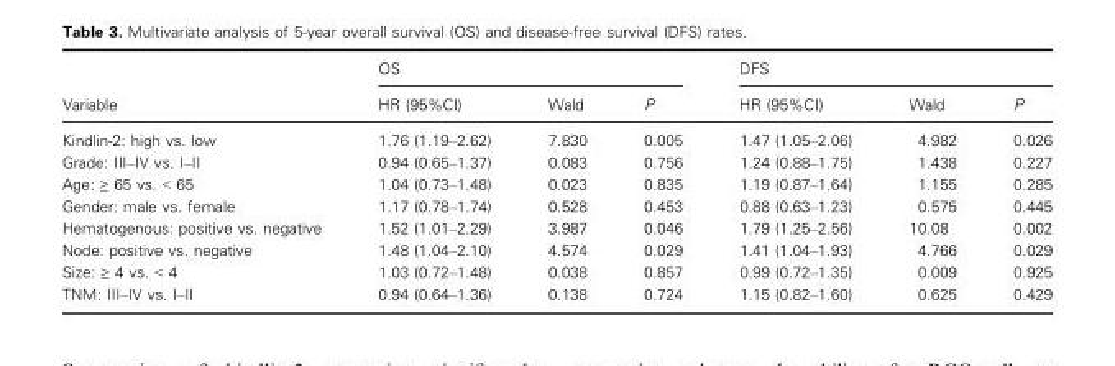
<table><thead><tr><td rowspan="2">Variable</td><td colspan="3">OS</td><td colspan="3">DFS</td></tr><tr><td>HR (95%CI)</td><td>Wald</td><td>P</td><td>HR (95%CI)</td><td>Wald</td><td>P</td></tr></thead><tbody><tr><td>Kindlin-2: high vs. low</td><td>1.76 (1.19–2.62)</td><td>7.830</td><td>0.005</td><td>1.47 (1.05–2.06)</td><td>4.982</td><td>0.026</td></tr><tr><td>Grade: III–IV vs. I–II</td><td>0.94 (0.65–1.37)</td><td>0.083</td><td>0.756</td><td>1.24 (0.88–1.75)</td><td>1.438</td><td>0.227</td></tr><tr><td>Age: ≥ 65 vs. &lt; 65</td><td>1.04 (0.73–1.48)</td><td>0.023</td><td>0.835</td><td>1.19 (0.87–1.64)</td><td>1.155</td><td>0.285</td></tr><tr><td>Gender: male vs. female</td><td>1.17 (0.78–1.74)</td><td>0.528</td><td>0.453</td><td>0.88 (0.63–1.23)</td><td>0.575</td><td>0.445</td></tr><tr><td>Hematogenous: positive vs. negative</td><td>1.52 (1.01–2.29)</td><td>3.987</td><td>0.046</td><td>1.79 (1.25–2.56)</td><td>10.08</td><td>0.002</td></tr><tr><td>Node: positive vs. negative</td><td>1.48 (1.04–2.10)</td><td>4.574</td><td>0.029</td><td>1.41 (1.04–1.93)</td><td>4.766</td><td>0.029</td></tr><tr><td>Size: ≥ 4 vs. &lt; 4</td><td>1.03 (0.72–1.48)</td><td>0.038</td><td>0.857</td><td>0.99 (0.72–1.35)</td><td>0.009</td><td>0.925</td></tr><tr><td>TNM: III–IV vs. I–II</td><td>0.94 (0.64–1.36)</td><td>0.138</td><td>0.724</td><td>1.15 (0.82–1.60)</td><td>0.625</td><td>0.429</td></tr></tbody></table>